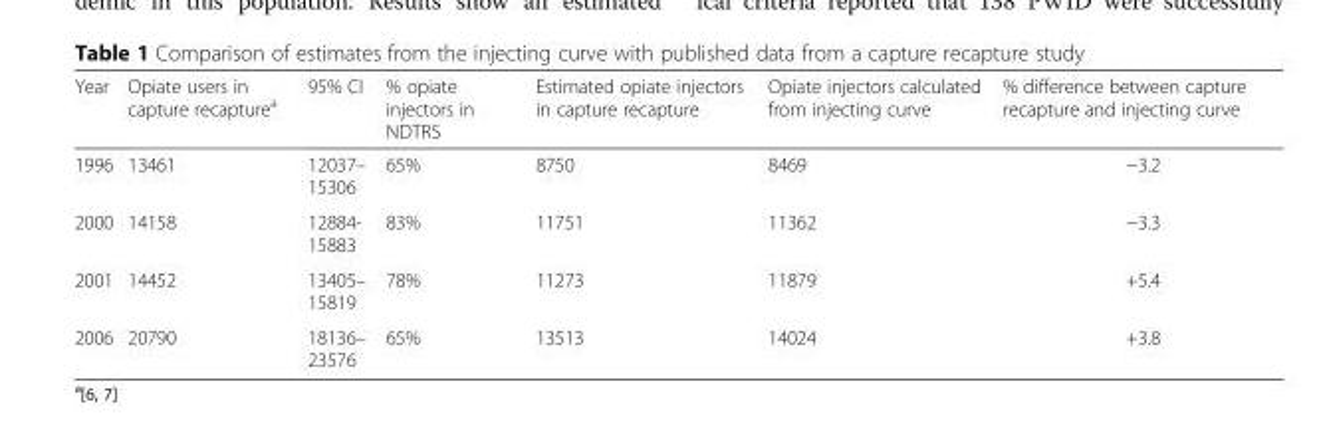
<table><thead><tr><td>Year</td><td>Opiate users in capture recapture<sup>a</sup></td><td>95% CI</td><td>% opiate injectors in NDTRS</td><td>Estimated opiate injectors in capture recapture</td><td>Opiate injectors calculated from injecting curve</td><td>% difference between capture recapture and injecting curve</td></tr></thead><tbody><tr><td>1996</td><td>13461</td><td>12037– 15306</td><td>65%</td><td>8750</td><td>8469</td><td>−3.2</td></tr><tr><td>2000</td><td>14158</td><td>12884- 15883</td><td>83%</td><td>11751</td><td>11362</td><td>−3.3</td></tr><tr><td>2001</td><td>14452</td><td>13405– 15819</td><td>78%</td><td>11273</td><td>11879</td><td>+5.4</td></tr><tr><td>2006</td><td>20790</td><td>18136– 23576</td><td>65%</td><td>13513</td><td>14024</td><td>+3.8</td></tr></tbody></table>